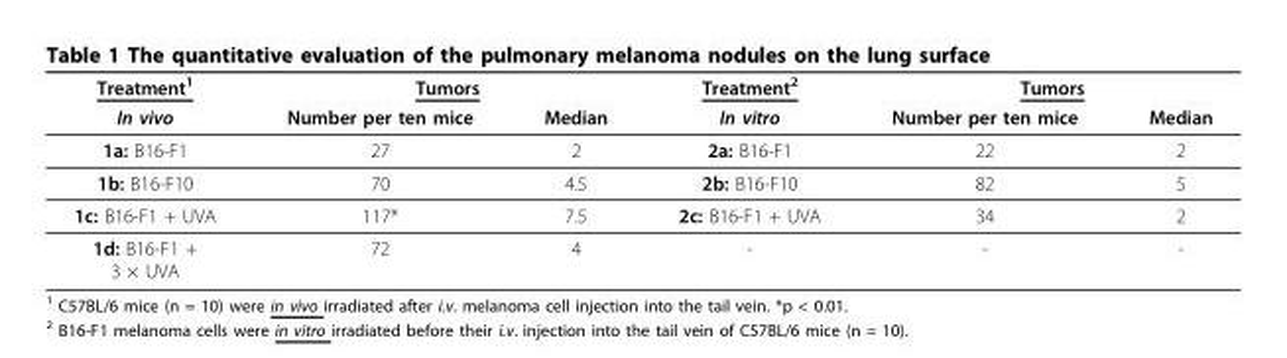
<table><thead><tr><td rowspan="2">Treatment<sup>1</sup> In vivo</td><td colspan="2">Tumors</td><td rowspan="2">Treatment<sup>2</sup> In vitro</td><td colspan="2">Tumors</td></tr><tr><td>Number per ten mice</td><td>Median</td><td>Number per ten mice</td><td>Median</td></tr></thead><tbody><tr><td>1a: B16-F1</td><td>27</td><td>2</td><td>2a: B16-F1</td><td>22</td><td>2</td></tr><tr><td>1b: B16-F10</td><td>70</td><td>4.5</td><td>2b: B16-F10</td><td>82</td><td>5</td></tr><tr><td>1c: B16-F1 + UVA</td><td>117*</td><td>7.5</td><td>2c: B16-F1 + UVA</td><td>34</td><td>2</td></tr><tr><td>1d: B16-F1 + 3 × UVA</td><td>72</td><td>4</td><td>-</td><td>-</td><td>-</td></tr></tbody></table>